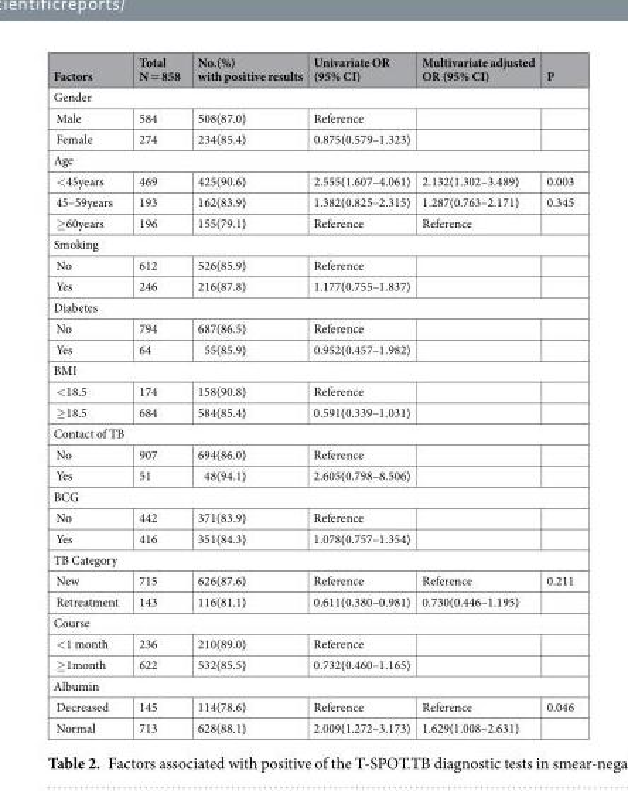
<table><thead><tr><td>Factors</td><td>Total N = 858</td><td>No.(%) with positive results</td><td>Univariate OR (95% CI)</td><td>Multivariate adjusted OR (95% CI)</td><td>P</td></tr></thead><tbody><tr><td colspan="6">Gender</td></tr><tr><td>Male</td><td>584</td><td>508(87.0)</td><td>Reference</td><td></td><td></td></tr><tr><td>Female</td><td>274</td><td>234(85.4)</td><td>0.875(0.579–1.323)</td><td></td><td></td></tr><tr><td colspan="6">Age</td></tr><tr><td>&lt;45years</td><td>469</td><td>425(90.6)</td><td>2.555(1.607–4.061)</td><td>2.132(1.302–3.489)</td><td>0.003</td></tr><tr><td>45–59years</td><td>193</td><td>162(83.9)</td><td>1.382(0.825–2.315)</td><td>1.287(0.763–2.171)</td><td>0.345</td></tr><tr><td>≥60years</td><td>196</td><td>155(79.1)</td><td>Reference</td><td>Reference</td><td></td></tr><tr><td colspan="6">Smoking</td></tr><tr><td>No</td><td>612</td><td>526(85.9)</td><td>Reference</td><td></td><td></td></tr><tr><td>Yes</td><td>246</td><td>216(87.8)</td><td>1.177(0.755–1.837)</td><td></td><td></td></tr><tr><td colspan="6">Diabetes</td></tr><tr><td>No</td><td>794</td><td>687(86.5)</td><td>Reference</td><td></td><td></td></tr><tr><td>Yes</td><td>64</td><td>55(85.9)</td><td>0.952(0.457–1.982)</td><td></td><td></td></tr><tr><td colspan="6">BMI</td></tr><tr><td>&lt;18.5</td><td>174</td><td>158(90.8)</td><td>Reference</td><td></td><td></td></tr><tr><td>≥18.5</td><td>684</td><td>584(85.4)</td><td>0.591(0.339–1.031)</td><td></td><td></td></tr><tr><td colspan="6">Contact of TB</td></tr><tr><td>No</td><td>907</td><td>694(86.0)</td><td>Reference</td><td></td><td></td></tr><tr><td>Yes</td><td>51</td><td>48(94.1)</td><td>2.605(0.798–8.506)</td><td></td><td></td></tr><tr><td colspan="6">BCG</td></tr><tr><td>No</td><td>442</td><td>371(83.9)</td><td>Reference</td><td></td><td></td></tr><tr><td>Yes</td><td>416</td><td>351(84.3)</td><td>1.078(0.757–1.354)</td><td></td><td></td></tr><tr><td colspan="6">TB Category</td></tr><tr><td>New</td><td>715</td><td>626(87.6)</td><td>Reference</td><td>Reference</td><td>0.211</td></tr><tr><td>Retreatment</td><td>143</td><td>116(81.1)</td><td>0.611(0.380–0.981)</td><td>0.730(0.446–1.195)</td><td></td></tr><tr><td colspan="6">Course</td></tr><tr><td>&lt;1 month</td><td>236</td><td>210(89.0)</td><td>Reference</td><td></td><td></td></tr><tr><td>≥1month</td><td>622</td><td>532(85.5)</td><td>0.732(0.460–1.165)</td><td></td><td></td></tr><tr><td colspan="6">Albumin</td></tr><tr><td>Decreased</td><td>145</td><td>114(78.6)</td><td>Reference</td><td>Reference</td><td>0.046</td></tr><tr><td>Normal</td><td>713</td><td>628(88.1)</td><td>2.009(1.272–3.173)</td><td>1.629(1.008–2.631)</td><td></td></tr></tbody></table>